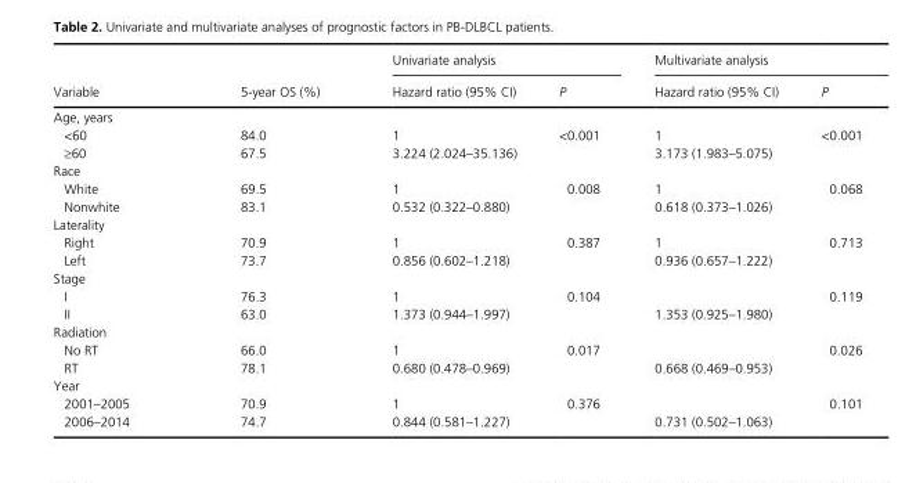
<table><thead><tr><td rowspan="2">Variable</td><td rowspan="2">5- year OS (%)</td><td colspan="2">Univariate analysis</td><td colspan="2">Multivariate analysis</td></tr><tr><td>Hazard ratio (95% CI)</td><td>P</td><td>Hazard ratio (95% CI)</td><td>P</td></tr></thead><tbody><tr><td colspan="6">Age, years</td></tr><tr><td>&lt;60</td><td>84.0</td><td>1</td><td rowspan="2">&lt;0.001</td><td>1</td><td rowspan="2">&lt;0.001</td></tr><tr><td>≥60</td><td>67.5</td><td>3.224 (2.024–35.136)</td><td>3.173 (1.983–5.075)</td></tr><tr><td colspan="6">Race</td></tr><tr><td>White</td><td>69.5</td><td>1</td><td>0.008</td><td>1</td><td>0.068</td></tr><tr><td>Nonwhite</td><td>83.1</td><td>0.532 (0.322–0.880)</td><td></td><td>0.618 (0.373–1.026)</td><td></td></tr><tr><td colspan="6">Laterality</td></tr><tr><td>Right</td><td>70.9</td><td>1</td><td rowspan="2">0.387</td><td>1</td><td rowspan="2">0.713</td></tr><tr><td>Left</td><td>73.7</td><td>0.856 (0.602–1.218)</td><td>0.936 (0.657–1.222)</td></tr><tr><td colspan="6">Stage</td></tr><tr><td>I</td><td>76.3</td><td>1</td><td rowspan="2">0.104</td><td></td><td rowspan="2">0.119</td></tr><tr><td>II</td><td>63.0</td><td>1.373 (0.944–1.997)</td><td>1.353 (0.925–1.980)</td></tr><tr><td colspan="6">Radiation</td></tr><tr><td>No RT</td><td>66.0</td><td>1</td><td rowspan="2">0.017</td><td></td><td rowspan="2">0.026</td></tr><tr><td>RT</td><td>78.1</td><td>0.680 (0.478–0.969)</td><td>0.668 (0.469–0.953)</td></tr><tr><td colspan="6">Year</td></tr><tr><td>2001–2005</td><td>70.9</td><td>1</td><td rowspan="2">0.376</td><td></td><td rowspan="2">0.101</td></tr><tr><td>2006–2014</td><td>74.7</td><td>0.844 (0.581–1.227)</td><td>0.731 (0.502–1.063)</td></tr></tbody></table>